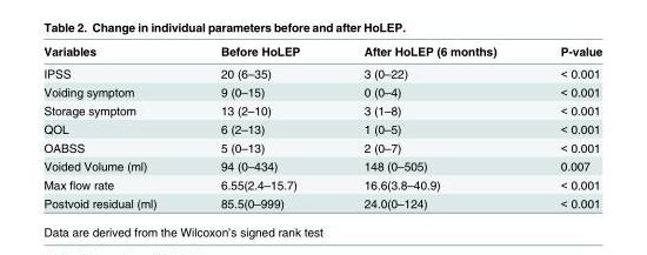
<table><thead><tr><td>Variables</td><td>Before HoLEP</td><td>After HoLEP (6 months)</td><td>P-value</td></tr></thead><tbody><tr><td>IPSS</td><td>20 (6–35)</td><td>3 (0–22)</td><td>&lt; 0.001</td></tr><tr><td>Voiding symptom</td><td>9 (0–15)</td><td>0 (0–4)</td><td>&lt; 0.001</td></tr><tr><td>Storage symptom</td><td>13 (2–10)</td><td>3 (1–8)</td><td>&lt; 0.001</td></tr><tr><td>QOL</td><td>6 (2–13)</td><td>1 (0–5)</td><td>&lt; 0.001</td></tr><tr><td>OABSS</td><td>5 (0–13)</td><td>2 (0–7)</td><td>&lt; 0.001</td></tr><tr><td>Voided Volume (ml)</td><td>94 (0–434)</td><td>148 (0–505)</td><td>0.007</td></tr><tr><td>Max flow rate</td><td>6.55(2.4–15.7)</td><td>16.6(3.8–40.9)</td><td>&lt; 0.001</td></tr><tr><td>Postvoid residual (ml)</td><td>85.5(0–999)</td><td>24.0(0–124)</td><td>&lt; 0.001</td></tr></tbody></table>